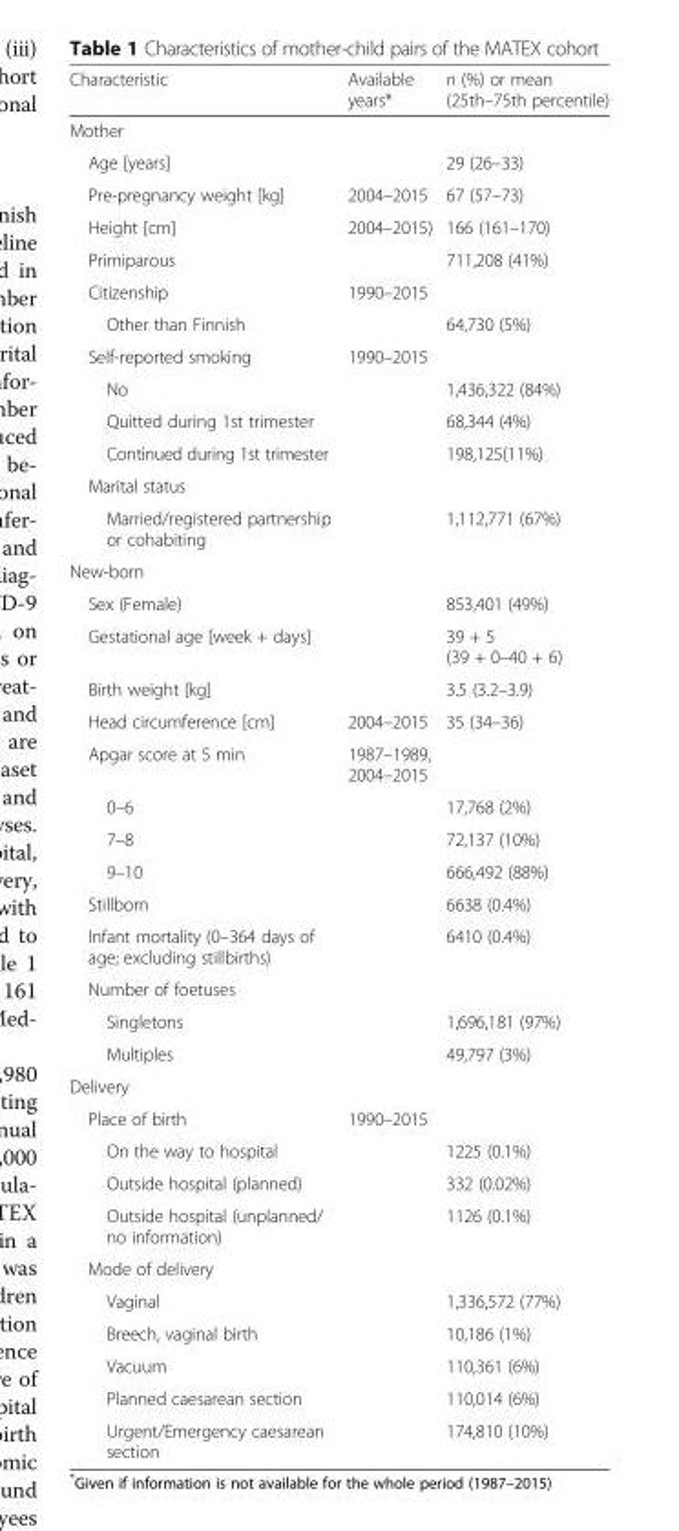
<table><thead><tr><td>Characteristic</td><td>Available years*</td><td>n (%) or mean (25th–75th percentile)</td></tr></thead><tbody><tr><td colspan="3">Mother</td></tr><tr><td>Age [years]</td><td></td><td>29 (26–33)</td></tr><tr><td>Pre-pregnancy weight [kg]</td><td>2004–2015</td><td>67 (57–73)</td></tr><tr><td>Height [cm]</td><td>2004–2015)</td><td>166 (161–170)</td></tr><tr><td>Primiparous</td><td></td><td>711,208 (41%)</td></tr><tr><td>Citizenship</td><td>1990–2015</td><td></td></tr><tr><td>Other than Finnish</td><td></td><td>64,730 (5%)</td></tr><tr><td>Self-reported smoking</td><td>1990–2015</td><td></td></tr><tr><td>No</td><td></td><td>1,436,322 (84%)</td></tr><tr><td>Quitted during 1st trimester</td><td></td><td>68,344 (4%)</td></tr><tr><td>Continued during 1st trimester</td><td></td><td>198,125(11%)</td></tr><tr><td colspan="3">Marital status</td></tr><tr><td>Married/registered partnership or cohabiting</td><td></td><td>1,112,771 (67%)</td></tr><tr><td colspan="3">New-born</td></tr><tr><td>Sex (Female)</td><td></td><td>853,401 (49%)</td></tr><tr><td>Gestational age [week + days]</td><td></td><td>39 + 5 (39 + 0–40 + 6)</td></tr><tr><td>Birth weight [kg]</td><td></td><td>3.5 (3.2–3.9)</td></tr><tr><td>Head circumference [cm]</td><td>2004–2015</td><td>35 (34–36)</td></tr><tr><td>Apgar score at 5 min</td><td>1987–1989, 2004–2015</td><td></td></tr><tr><td>0–6</td><td></td><td>17,768 (2%)</td></tr><tr><td>7–8</td><td></td><td>72,137 (10%)</td></tr><tr><td>9–10</td><td></td><td>666,492 (88%)</td></tr><tr><td>Stillborn</td><td></td><td>6638 (0.4%)</td></tr><tr><td>Infant mortality (0–364 days of age; excluding stillbirths)</td><td></td><td>6410 (0.4%)</td></tr><tr><td colspan="3">Number of foetuses</td></tr><tr><td>Singletons</td><td></td><td>1,696,181 (97%)</td></tr><tr><td>Multiples</td><td></td><td>49,797 (3%)</td></tr><tr><td colspan="3">Delivery</td></tr><tr><td>Place of birth</td><td>1990–2015</td><td></td></tr><tr><td>On the way to hospital</td><td></td><td>1225 (0.1%)</td></tr><tr><td>Outside hospital (planned)</td><td></td><td>332 (0.02%)</td></tr><tr><td>Outside hospital (unplanned/ no information)</td><td></td><td>1126 (0.1%)</td></tr><tr><td colspan="3">Mode of delivery</td></tr><tr><td>Vaginal</td><td></td><td>1,336,572 (77%)</td></tr><tr><td>Breech, vaginal birth</td><td></td><td>10,186 (1%)</td></tr><tr><td>Vacuum</td><td></td><td>110,361 (6%)</td></tr><tr><td>Planned caesarean section</td><td></td><td>110,014 (6%)</td></tr><tr><td>Urgent/Emergency caesarean section</td><td></td><td>174,810 (10%)</td></tr></tbody></table>